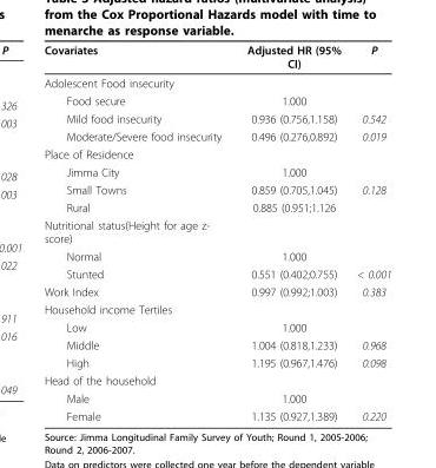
<table><thead><tr><td>Covariates</td><td>Adjusted HR (95% CI)</td><td>P</td></tr></thead><tbody><tr><td colspan="3">Adolescent Food insecurity</td></tr><tr><td>Food secure</td><td>1.000</td><td></td></tr><tr><td>Mild food insecurity</td><td>0.936 (0.756,1.158)</td><td>0.542</td></tr><tr><td>Moderate/Severe food insecurity</td><td>0.496 (0.276,0.892)</td><td>0.019</td></tr><tr><td colspan="3">Place of Residence</td></tr><tr><td>Jimma City</td><td>1.000</td><td></td></tr><tr><td>Small Towns</td><td>0.859 (0.705,1.045)</td><td>0.128</td></tr><tr><td>Rural</td><td>0.885 (0.951;1.126</td><td></td></tr><tr><td colspan="3">Nutritional status(Height for age z- score)</td></tr><tr><td>Normal</td><td>1.000</td><td></td></tr><tr><td>Stunted</td><td>0.551 (0.402;0.755)</td><td>&lt; 0.001</td></tr><tr><td>Work Index</td><td>0.997 (0.992;1.003)</td><td>0.383</td></tr><tr><td colspan="3">Household income Tertiles</td></tr><tr><td>Low</td><td>1.000</td><td></td></tr><tr><td>Middle</td><td>1.004 (0.818,1.233)</td><td>0.968</td></tr><tr><td>High</td><td>1.195 (0.967,1.476)</td><td>0.098</td></tr><tr><td colspan="3">Head of the household</td></tr><tr><td>Male</td><td>1.000</td><td></td></tr><tr><td>Female</td><td>1.135 (0.927,1.389)</td><td>0.220</td></tr></tbody></table>